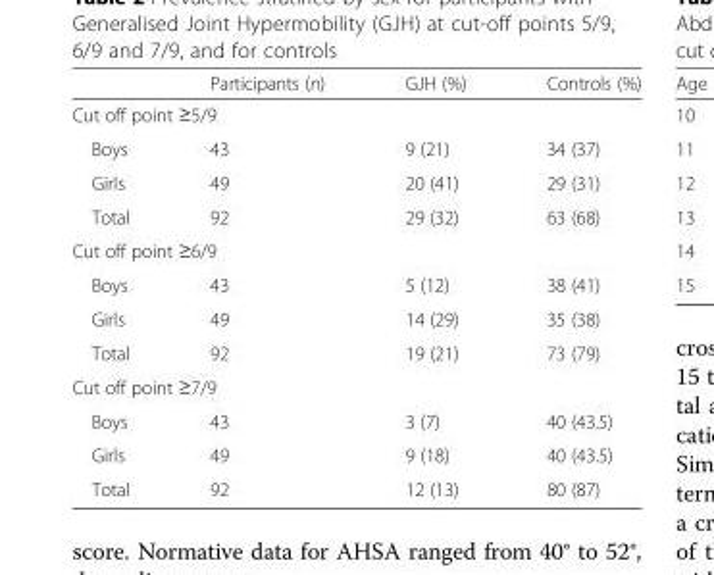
<table><thead><tr><td></td><td>Participants (n)</td><td>GJH (%)</td><td>Controls (%)</td></tr></thead><tbody><tr><td colspan="4">Cut off point ≥5/9</td></tr><tr><td>Boys</td><td>43</td><td>9 (21)</td><td>34 (37)</td></tr><tr><td>Girls</td><td>49</td><td>20 (41)</td><td>29 (31)</td></tr><tr><td>Total</td><td>92</td><td>29 (32)</td><td>63 (68)</td></tr><tr><td colspan="4">Cut off point ≥6/9</td></tr><tr><td>Boys</td><td>43</td><td>5 (12)</td><td>38 (41)</td></tr><tr><td>Girls</td><td>49</td><td>14 (29)</td><td>35 (38)</td></tr><tr><td>Total</td><td>92</td><td>19 (21)</td><td>73 (79)</td></tr><tr><td colspan="4">Cut off point ≥7/9</td></tr><tr><td>Boys</td><td>43</td><td>3 (7)</td><td>40 (43.5)</td></tr><tr><td>Girls</td><td>49</td><td>9 (18)</td><td>40 (43.5)</td></tr><tr><td>Total</td><td>92</td><td>12 (13)</td><td>80 (87)</td></tr></tbody></table>